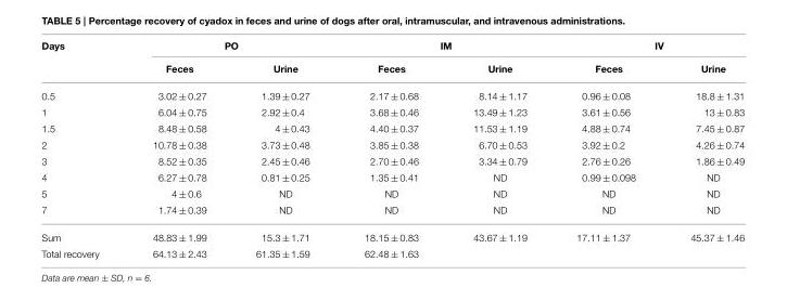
<table><thead><tr><td rowspan="2">Days</td><td colspan="2">PO</td><td colspan="2">IM</td><td colspan="2">IV</td></tr><tr><td>Feces</td><td>Urine</td><td>Feces</td><td>Urine</td><td>Feces</td><td>Urine</td></tr></thead><tbody><tr><td>0.5</td><td>3.02 ± 0.27</td><td>1.39 ± 0.27</td><td>2.17 ± 0.68</td><td>8.14 ± 1.17</td><td>0.96 ± 0.08</td><td>18.8 ± 1.31</td></tr><tr><td>1</td><td>6.04 ± 0.75</td><td>2.92 ± 0.4</td><td>3.68 ± 0.46</td><td>13.49 ± 1.23</td><td>3.61 ± 0.56</td><td>13 ± 0.83</td></tr><tr><td>1.5</td><td>8.48 ± 0.58</td><td>4 ± 0.43</td><td>4.40 ± 0.37</td><td>11.53 ± 1.19</td><td>4.88 ± 0.74</td><td>7.45 ± 0.87</td></tr><tr><td>2</td><td>10.78 ± 0.38</td><td>3.73 ± 0.48</td><td>3.85 ± 0.38</td><td>6.70 ± 0.53</td><td>3.92 ± 0.2</td><td>4.26 ± 0.74</td></tr><tr><td>3</td><td>8.52 ± 0.35</td><td>2.45 ± 0.46</td><td>2.70 ± 0.46</td><td>3.34 ± 0.79</td><td>2.76 ± 0.26</td><td>1.86 ± 0.49</td></tr><tr><td>4</td><td>6.27 ± 0.78</td><td>0.81 ± 0.25</td><td>1.35 ± 0.41</td><td>ND</td><td>0.99 ± 0.098</td><td>ND</td></tr><tr><td>5</td><td>4 ± 0.6</td><td>ND</td><td>ND</td><td>ND</td><td>ND</td><td>ND</td></tr><tr><td>7</td><td>1.74 ± 0.39</td><td>ND</td><td>ND</td><td>ND</td><td>ND</td><td>ND</td></tr><tr><td>Sum</td><td>48.83 ± 1.99</td><td>15.3 ± 1.71</td><td>18.15 ± 0.83</td><td>43.67 ± 1.19</td><td>17.11 ± 1.37</td><td>45.37 ± 1.46</td></tr><tr><td>Total recovery</td><td>64.13 ± 2.43</td><td>61.35 ± 1.59</td><td>62.48 ± 1.63</td><td></td><td></td><td></td></tr></tbody></table>